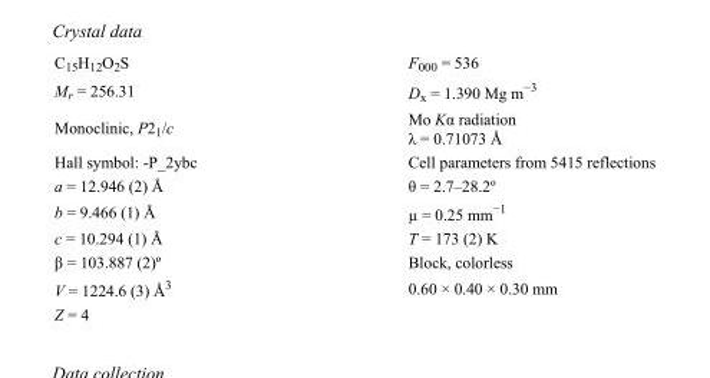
<table><tbody><tr><td>C<sub>15</sub>H<sub>12</sub>O<sub>2</sub>S</td><td>F<sub>000</sub> = 536</td></tr><tr><td>M<sub>r</sub> = 256.31</td><td>D<sub>x</sub> = 1.390 Mg m<sup>−3</sup></td></tr><tr><td>Monoclinic, P2<sub>1</sub>/c</td><td>Mo Kα radiation λ = 0.71073 Å</td></tr><tr><td>Hall symbol: -P_2ybc</td><td>Cell parameters from 5415 reflections</td></tr><tr><td>a = 12.946 (2) Å</td><td>θ = 2.7–28.2º</td></tr><tr><td>b = 9.466 (1) Å</td><td>µ = 0.25 mm<sup>−1</sup></td></tr><tr><td>c = 10.294 (1) Å</td><td>T = 173 (2) K</td></tr><tr><td>β = 103.887 (2)º</td><td>Block, colorless</td></tr><tr><td>V = 1224.6 (3) Å<sup>3</sup></td><td>0.60 × 0.40 × 0.30 mm</td></tr><tr><td>Z = 4</td><td></td></tr></tbody></table>